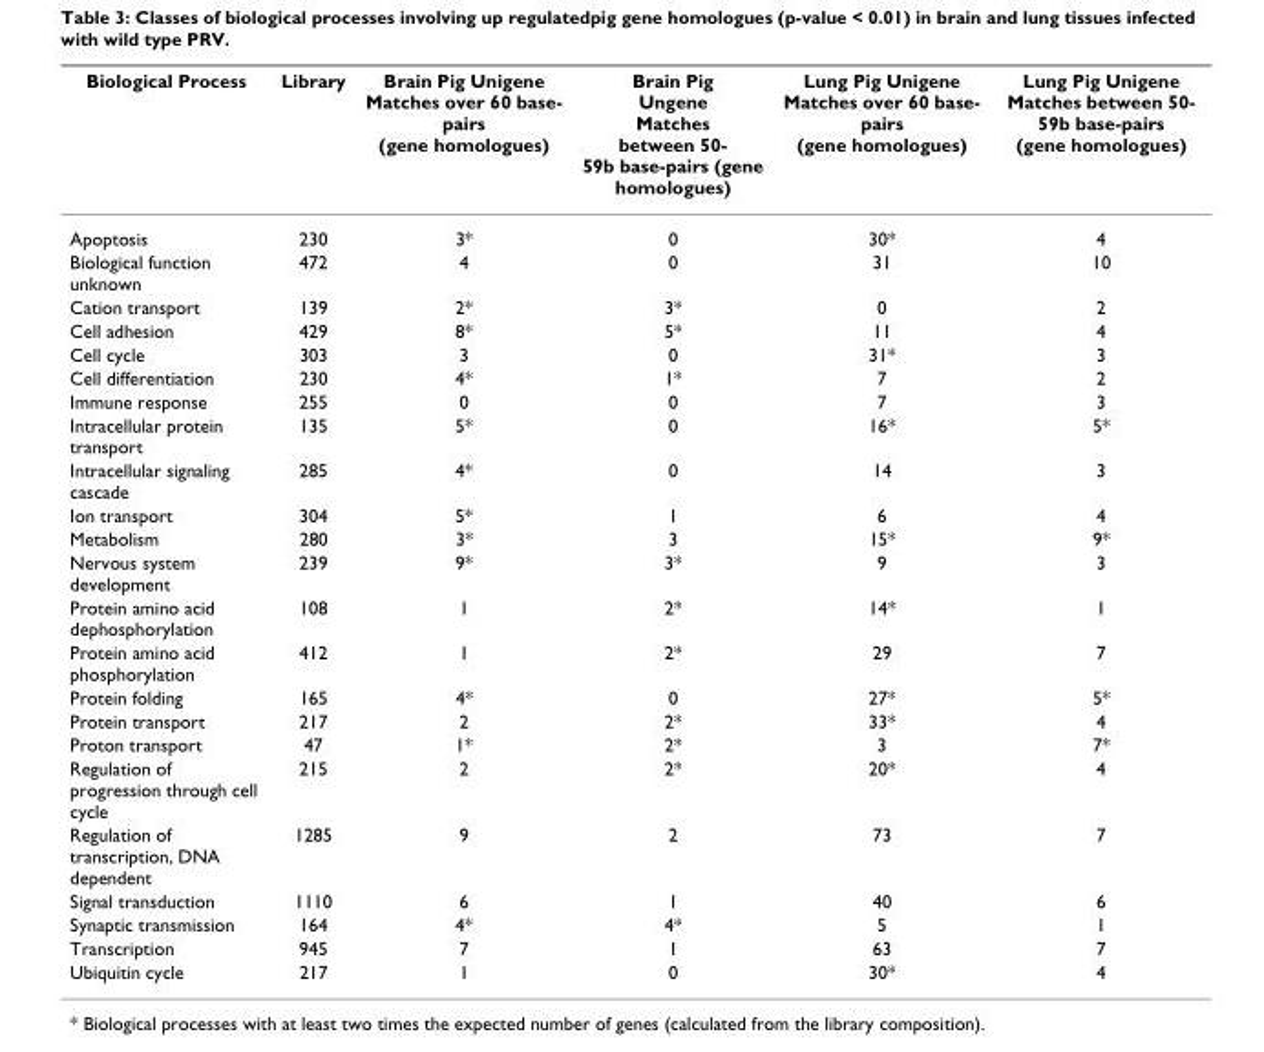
<table><thead><tr><td>Biological Process</td><td>Library</td><td>Brain Pig Unigene Matches over 60 base- pairs (gene homologues)</td><td>Brain Pig Ungene Matches between 50- 59b base-pairs (gene homologues)</td><td>Lung Pig Unigene Matches over 60 base- pairs (gene homologues)</td><td>Lung Pig Unigene Matches between 50- 59b base-pairs (gene homologues)</td></tr></thead><tbody><tr><td>Apoptosis</td><td>230</td><td>3*</td><td>0</td><td>30*</td><td>4</td></tr><tr><td>Biological function unknown</td><td>472</td><td>4</td><td>0</td><td>31</td><td>10</td></tr><tr><td>Cation transport</td><td>139</td><td>2*</td><td>3*</td><td>0</td><td>2</td></tr><tr><td>Cell adhesion</td><td>429</td><td>8*</td><td>5*</td><td>11</td><td>4</td></tr><tr><td>Cell cycle</td><td>303</td><td>3</td><td>0</td><td>31*</td><td>3</td></tr><tr><td>Cell differentiation</td><td>230</td><td>4*</td><td>1*</td><td>7</td><td>2</td></tr><tr><td>Immune response</td><td>255</td><td>0</td><td>0</td><td>7</td><td>3</td></tr><tr><td>Intracellular protein transport</td><td>135</td><td>5*</td><td>0</td><td>16*</td><td>5*</td></tr><tr><td>Intracellular signaling cascade</td><td>285</td><td>4*</td><td>0</td><td>14</td><td>3</td></tr><tr><td>Ion transport</td><td>304</td><td>5*</td><td>1</td><td>6</td><td>4</td></tr><tr><td>Metabolism</td><td>280</td><td>3*</td><td>3</td><td>15*</td><td>9*</td></tr><tr><td>Nervous system development</td><td>239</td><td>9*</td><td>3*</td><td>9</td><td>3</td></tr><tr><td>Protein amino acid dephosphorylation</td><td>108</td><td>1</td><td>2*</td><td>14*</td><td>1</td></tr><tr><td>Protein amino acid phosphorylation</td><td>412</td><td>1</td><td>2*</td><td>29</td><td>7</td></tr><tr><td>Protein folding</td><td>165</td><td>4*</td><td>0</td><td>27*</td><td>5*</td></tr><tr><td>Protein transport</td><td>217</td><td>2</td><td>2*</td><td>33*</td><td>4</td></tr><tr><td>Proton transport</td><td>47</td><td>1*</td><td>2*</td><td>3</td><td>7*</td></tr><tr><td>Regulation of progression through cell cycle</td><td>215</td><td>2</td><td>2*</td><td>20*</td><td>4</td></tr><tr><td>Regulation of transcription, DNA dependent</td><td>1285</td><td>9</td><td>2</td><td>73</td><td>7</td></tr><tr><td>Signal transduction</td><td>1110</td><td>6</td><td>1</td><td>40</td><td>6</td></tr><tr><td>Synaptic transmission</td><td>164</td><td>4*</td><td>4*</td><td>5</td><td>1</td></tr><tr><td>Transcription</td><td>945</td><td>7</td><td>1</td><td>63</td><td>7</td></tr><tr><td>Ubiquitin cycle</td><td>217</td><td>1</td><td>0</td><td>30*</td><td>4</td></tr></tbody></table>